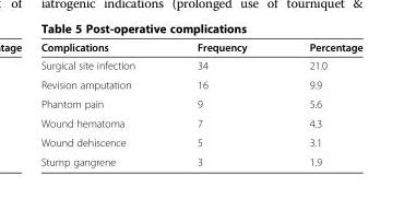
<table><thead><tr><td>Complications</td><td>Frequency</td><td>Percentage</td></tr></thead><tbody><tr><td>Surgical site infection</td><td>34</td><td>21.0</td></tr><tr><td>Revision amputation</td><td>16</td><td>9.9</td></tr><tr><td>Phantom pain</td><td>9</td><td>5.6</td></tr><tr><td>Wound hematoma</td><td>7</td><td>4.3</td></tr><tr><td>Wound dehiscence</td><td>5</td><td>3.1</td></tr><tr><td>Stump gangrene</td><td>3</td><td>1.9</td></tr></tbody></table>